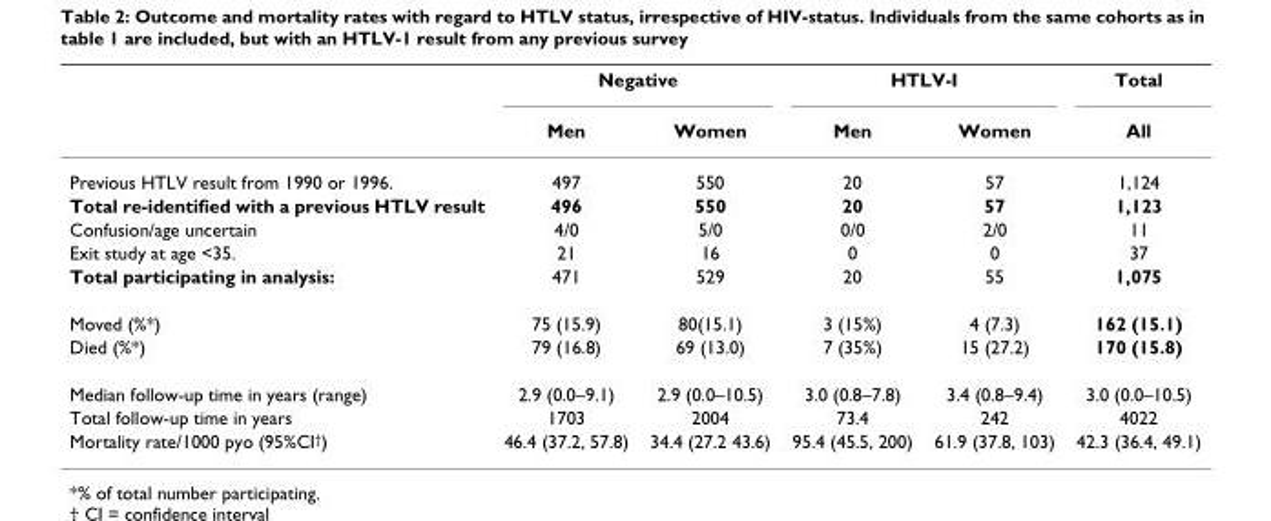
<table><thead><tr><td rowspan="2"></td><td colspan="2">Negative</td><td colspan="2">HTLV-I</td><td rowspan="2">Total All</td></tr><tr><td>Men</td><td>Women</td><td>Men</td><td>Women</td></tr></thead><tbody><tr><td>Previous HTLV result from 1990 or 1996.</td><td>497</td><td>550</td><td>20</td><td>57</td><td>1,124</td></tr><tr><td>Total re-identified with a previous HTLV result</td><td>496</td><td>550</td><td>20</td><td>57</td><td>1,123</td></tr><tr><td>Confusion/age uncertain</td><td>4/0</td><td>5/0</td><td>0/0</td><td>2/0</td><td>11</td></tr><tr><td>Exit study at age &lt;35.</td><td>21</td><td>16</td><td>0</td><td>0</td><td>37</td></tr><tr><td>Total participating in analysis:</td><td>471</td><td>529</td><td>20</td><td>55</td><td>1,075</td></tr><tr><td>Moved (%*)</td><td>75 (15.9)</td><td>80(15.1)</td><td>3 (15%)</td><td>4 (7.3)</td><td>162 (15.1)</td></tr><tr><td>Died (%*)</td><td>79 (16.8)</td><td>69 (13.0)</td><td>7 (35%)</td><td>15 (27.2)</td><td>170 (15.8)</td></tr><tr><td>Median follow-up time in years (range)</td><td>2.9 (0.0–9.1)</td><td>2.9 (0.0–10.5)</td><td>3.0 (0.8–7.8)</td><td>3.4 (0.8–9.4)</td><td>3.0 (0.0–10.5)</td></tr><tr><td>Total follow-up time in years</td><td>1703</td><td>2004</td><td>73.4</td><td>242</td><td>4022</td></tr><tr><td>Mortality rate/1000 pyo (95%CI<sup>†</sup>)</td><td>46.4 (37.2, 57.8)</td><td>34.4 (27.2 43.6)</td><td>95.4 (45.5, 200)</td><td>61.9 (37.8, 103)</td><td>42.3 (36.4, 49.1)</td></tr></tbody></table>